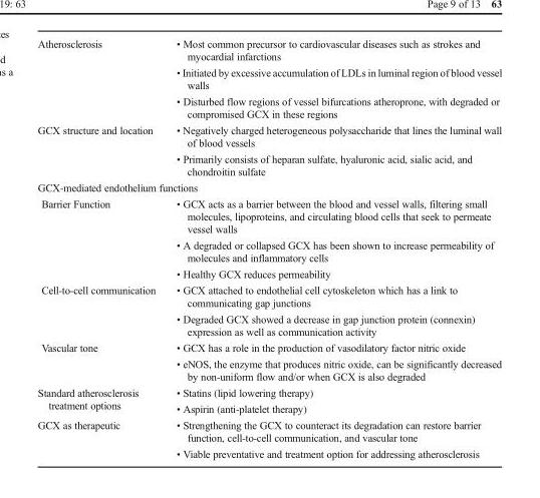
<table><tbody><tr><td>Atherosclerosis</td><td>• Most common precursor to cardiovascular diseases such as strokes and myocardial infarctions • Initiated by excessive accumulation of LDLs in luminal region of blood vessel walls • Disturbed flow regions of vessel bifurcations atheroprone, with degraded or compromised GCX in these regions</td></tr><tr><td>GCX structure and location</td><td>• Negatively charged heterogeneous polysaccharide that lines the luminal wall of blood vessels • Primarily consists of heparan sulfate, hyaluronic acid, sialic acid, and chondroitin sulfate</td></tr><tr><td colspan="2">GCX-mediated endothelium functions</td></tr><tr><td>Barrier Function</td><td>• GCX acts as a barrier between the blood and vessel walls, filtering small molecules, lipoproteins, and circulating blood cells that seek to permeate vessel walls • A degraded or collapsed GCX has been shown to increase permeability of molecules and inflammatory cells • Healthy GCX reduces permeability</td></tr><tr><td>Cell-to-cell communication</td><td>• GCX attached to endothelial cell cytoskeleton which has a link to communicating gap junctions • Degraded GCX showed a decrease in gap junction protein (connexin) expression as well as communication activity</td></tr><tr><td>Vascular tone</td><td>• GCX has a role in the production of vasodilatory factor nitric oxide • eNOS, the enzyme that produces nitric oxide, can be significantly decreased by non-uniform flow and/or when GCX is also degraded</td></tr><tr><td>Standard atherosclerosis treatment options</td><td>• Statins (lipid lowering therapy) • Aspirin (anti-platelet therapy)</td></tr><tr><td>GCX as therapeutic</td><td>• Strengthening the GCX to counteract its degradation can restore barrier function, cell-to-cell communication, and vascular tone • Viable preventative and treatment option for addressing atherosclerosis</td></tr></tbody></table>